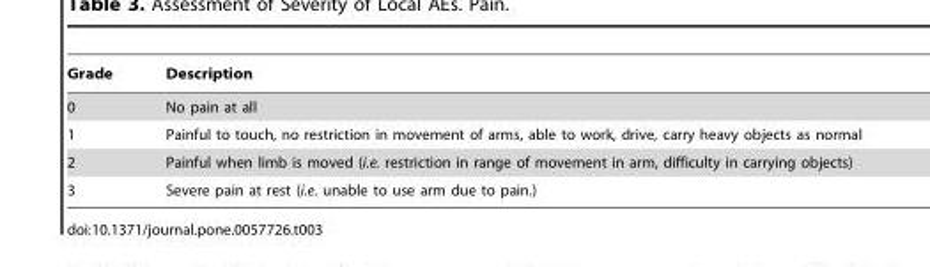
<table><thead><tr><td>Grade</td><td>Description</td></tr></thead><tbody><tr><td>0</td><td>No pain at all</td></tr><tr><td>1</td><td>Painful to touch, no restriction in movement of arms, able to work, drive, carry heavy objects as normal</td></tr><tr><td>2</td><td>Painful when limb is moved (i.e. restriction in range of movement in arm, difficulty in carrying objects)</td></tr><tr><td>3</td><td>Severe pain at rest (i.e. unable to use arm due to pain.)</td></tr></tbody></table>